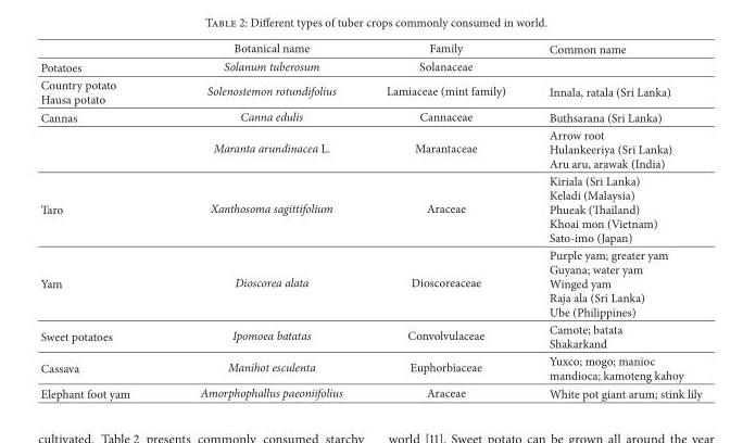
<table><thead><tr><td></td><td>Botanical name</td><td>Family</td><td>Common name</td></tr></thead><tbody><tr><td>Potatoes</td><td>Solanum tuberosum</td><td>Solanaceae</td><td></td></tr><tr><td>Country potato Hausa potato</td><td>Solenostemon rotundifolius</td><td>Lamiaceae (mint family)</td><td>Innala, ratala (Sri Lanka)</td></tr><tr><td rowspan="2">Cannas</td><td>Canna edulis</td><td>Cannaceae</td><td>Buthsarana (Sri Lanka)</td></tr><tr><td>Maranta arundinacea L.</td><td>Marantaceae</td><td>Arrow root Hulankeeriya (Sri Lanka) Aru aru, arawak (India)</td></tr><tr><td>Taro</td><td>Xanthosoma sagittifolium</td><td>Araceae</td><td>Kiriala (Sri Lanka) Keladi (Malaysia) Phueak (Thailand) Khoai mon (Vietnam) Sato-imo (Japan)</td></tr><tr><td>Yam</td><td>Dioscorea alata</td><td>Dioscoreaceae</td><td>Purple yam; greater yam Guyana; water yam Winged yam Raja ala (Sri Lanka) Ube (Philippines)</td></tr><tr><td>Sweet potatoes</td><td>Ipomoea batatas</td><td>Convolvulaceae</td><td>Camote; batata Shakarkand</td></tr><tr><td>Cassava</td><td>Manihot esculenta</td><td>Euphorbiaceae</td><td>Yuxco; mogo; manioc mandioca; kamoteng kahoy</td></tr><tr><td>Elephant foot yam</td><td>Amorphophallus paeoniifolius</td><td>Araceae</td><td>White pot giant arum; stink lily</td></tr></tbody></table>